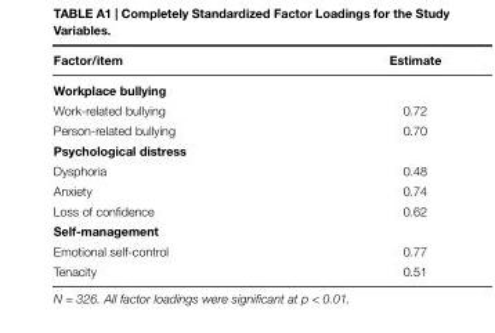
<table><thead><tr><td>Factor/item</td><td>Estimate</td></tr></thead><tbody><tr><td colspan="2">Workplace bullying</td></tr><tr><td>Work-related bullying</td><td>0.72</td></tr><tr><td>Person-related bullying</td><td>0.70</td></tr><tr><td colspan="2">Psychological distress</td></tr><tr><td>Dysphoria</td><td>0.48</td></tr><tr><td>Anxiety</td><td>0.74</td></tr><tr><td>Loss of confidence</td><td>0.62</td></tr><tr><td colspan="2">Self-management</td></tr><tr><td>Emotional self-control</td><td>0.77</td></tr><tr><td>Tenacity</td><td>0.51</td></tr></tbody></table>